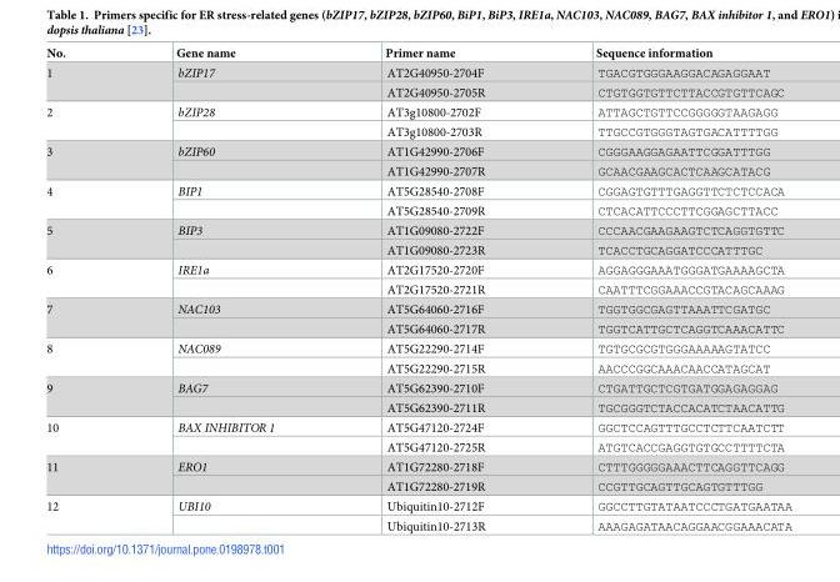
<table><thead><tr><td>No.</td><td>Gene name</td><td>Primer name</td><td>Sequence information</td></tr></thead><tbody><tr><td rowspan="2">1</td><td>bZIP17</td><td>AT2G40950-2704F</td><td>TGACGTGGGAAGGACAGAGGAAT</td></tr><tr><td></td><td>AT2G40950-2705R</td><td>CTGTGGTGTTCTTACCGTGTTCAGC</td></tr><tr><td rowspan="2">2</td><td>bZIP28</td><td>AT3g10800-2702F</td><td>ATTAGCTGTTCCGGGGGTAAGAGG</td></tr><tr><td></td><td>AT3g10800-2703R</td><td>TTGCCGTGGGTAGTGACATTTTGG</td></tr><tr><td rowspan="2">3</td><td>bZIP60</td><td>AT1G42990-2706F</td><td>CGGGAAGGAGAATTCGGATTTGG</td></tr><tr><td></td><td>AT1G42990-2707R</td><td>GCAACGAAGCACTCAAGCATACG</td></tr><tr><td rowspan="2">4</td><td>BIP1</td><td>AT5G28540-2708F</td><td>CGGAGTGTTTGAGGTTCTCTCCACA</td></tr><tr><td></td><td>AT5G28540-2709R</td><td>CTCACATTCCCTTCGGAGCTTACC</td></tr><tr><td rowspan="2">5</td><td>BIP3</td><td>AT1G09080-2722F</td><td>CCCAACGAAGAAGTCTCAGGTGTTC</td></tr><tr><td></td><td>AT1G09080-2723R</td><td>TCACCTGCAGGATCCCATTTGC</td></tr><tr><td rowspan="2">6</td><td>IRE1a</td><td>AT2G17520-2720F</td><td>AGGAGGGAAATGGGATGAAAAGCTA</td></tr><tr><td></td><td>AT2G17520-2721R</td><td>CAATTTCGGAAACCGTACAGCAAAG</td></tr><tr><td rowspan="2">7</td><td>NAC103</td><td>AT5G64060-2716F</td><td>TGGTGGCGAGTTAAATTCGATGC</td></tr><tr><td></td><td>AT5G64060-2717R</td><td>TGGTCATTGCTCAGGTCAAACATTC</td></tr><tr><td rowspan="2">8</td><td>NAC089</td><td>AT5G22290-2714F</td><td>TGTGCGCGTGGGAAAAAGTATCC</td></tr><tr><td></td><td>AT5G22290-2715R</td><td>AACCCGGCAAACAACCATAGCAT</td></tr><tr><td rowspan="2">9</td><td>BAG7</td><td>AT5G62390-2710F</td><td>CTGATTGCTCGTGATGGAGAGGAG</td></tr><tr><td></td><td>AT5G62390-2711R</td><td>TGCGGGTCTACCACATCTAACATTG</td></tr><tr><td rowspan="2">10</td><td>BAX INHIBITOR 1</td><td>AT5G47120-2724F</td><td>GGCTCCAGTTTGCCTCTTCAATCTT</td></tr><tr><td></td><td>AT5G47120-2725R</td><td>ATGTCACCGAGGTGTGCCTTTTCTA</td></tr><tr><td rowspan="2">11</td><td>ERO1</td><td>AT1G72280-2718F</td><td>CTTTGGGGGAAACTTCAGGTTCAGG</td></tr><tr><td></td><td>AT1G72280-2719R</td><td>CCGTTGCAGTTGCAGTGTTTGG</td></tr><tr><td rowspan="2">12</td><td>UBI10</td><td>Ubiquitin10-2712F</td><td>GGCCTTGTATAATCCCTGATGAATAA</td></tr><tr><td></td><td>Ubiquitin10-2713R</td><td>AAAGAGATAACAGGAACGGAAACATA</td></tr></tbody></table>